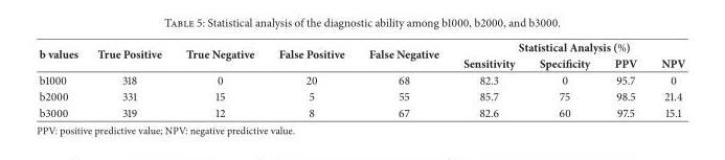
<table><thead><tr><td rowspan="2">b values</td><td rowspan="2">True Positive</td><td rowspan="2">True Negative</td><td rowspan="2">False Positive</td><td rowspan="2">False Negative</td><td colspan="4">Statistical Analysis (%)</td></tr><tr><td>Sensitivity</td><td>Specificity</td><td>PPV</td><td>NPV</td></tr></thead><tbody><tr><td>b1000</td><td>318</td><td>0</td><td>20</td><td>68</td><td>82.3</td><td>0</td><td>95.7</td><td>0</td></tr><tr><td>b2000</td><td>331</td><td>15</td><td>5</td><td>55</td><td>85.7</td><td>75</td><td>98.5</td><td>21.4</td></tr><tr><td>b3000</td><td>319</td><td>12</td><td>8</td><td>67</td><td>82.6</td><td>60</td><td>97.5</td><td>15.1</td></tr></tbody></table>